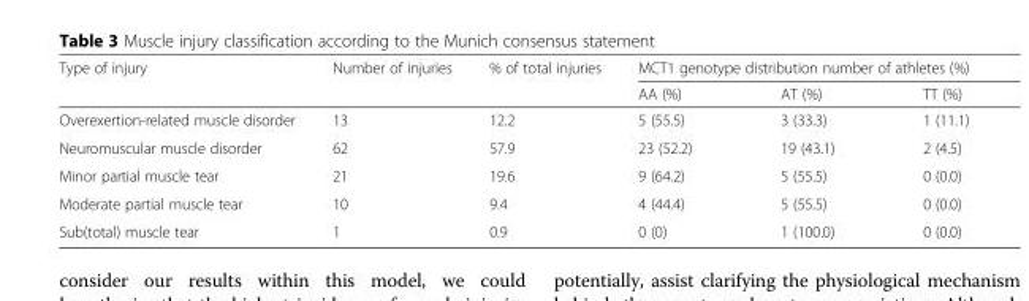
<table><thead><tr><td rowspan="2">Type of injury</td><td rowspan="2">Number of injuries</td><td rowspan="2">% of total injuries</td><td colspan="3">MCT1 genotype distribution number of athletes (%)</td></tr><tr><td>AA (%)</td><td>AT (%)</td><td>TT (%)</td></tr></thead><tbody><tr><td>Overexertion-related muscle disorder</td><td>13</td><td>12.2</td><td>5 (55.5)</td><td>3 (33.3)</td><td>1 (11.1)</td></tr><tr><td>Neuromuscular muscle disorder</td><td>62</td><td>57.9</td><td>23 (52.2)</td><td>19 (43.1)</td><td>2 (4.5)</td></tr><tr><td>Minor partial muscle tear</td><td>21</td><td>19.6</td><td>9 (64.2)</td><td>5 (55.5)</td><td>0 (0.0)</td></tr><tr><td>Moderate partial muscle tear</td><td>10</td><td>9.4</td><td>4 (44.4)</td><td>5 (55.5)</td><td>0 (0.0)</td></tr><tr><td>Sub(total) muscle tear</td><td>1</td><td>0.9</td><td>0 (0)</td><td>1 (100.0)</td><td>0 (0.0)</td></tr></tbody></table>